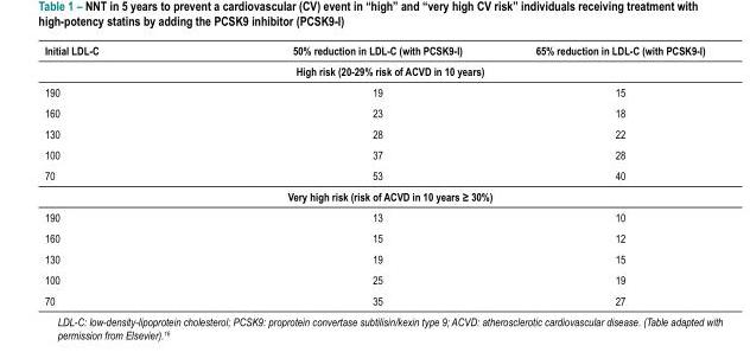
<table><thead><tr><td>Initial LDL‑C</td><td>50% reduction in LDL‑C (with PCSK9‑I)</td><td>65% reduction in LDL‑C (with PCSK9‑I)</td></tr></thead><tbody><tr><td colspan="3">High risk (20‑29% risk of ACVD in 10 years)</td></tr><tr><td>190</td><td>19</td><td>15</td></tr><tr><td>160</td><td>23</td><td>18</td></tr><tr><td>130</td><td>28</td><td>22</td></tr><tr><td>100</td><td>37</td><td>28</td></tr><tr><td>70</td><td>53</td><td>40</td></tr><tr><td colspan="3">Very high risk (risk of ACVD in 10 years ≥ 30%)</td></tr><tr><td>190</td><td>13</td><td>10</td></tr><tr><td>160</td><td>15</td><td>12</td></tr><tr><td>130</td><td>19</td><td>15</td></tr><tr><td>100</td><td>25</td><td>19</td></tr><tr><td>70</td><td>35</td><td>27</td></tr></tbody></table>